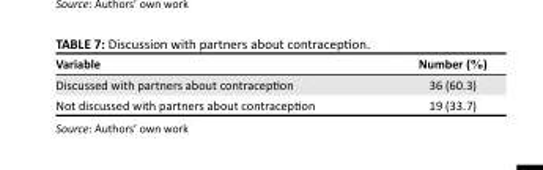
<table><thead><tr><td>Variable</td><td>Number (%)</td></tr></thead><tbody><tr><td>Discussed with partners about contraception</td><td>36 (60.3)</td></tr><tr><td>Not discussed with partners about contraception</td><td>19 (33.7)</td></tr></tbody></table>